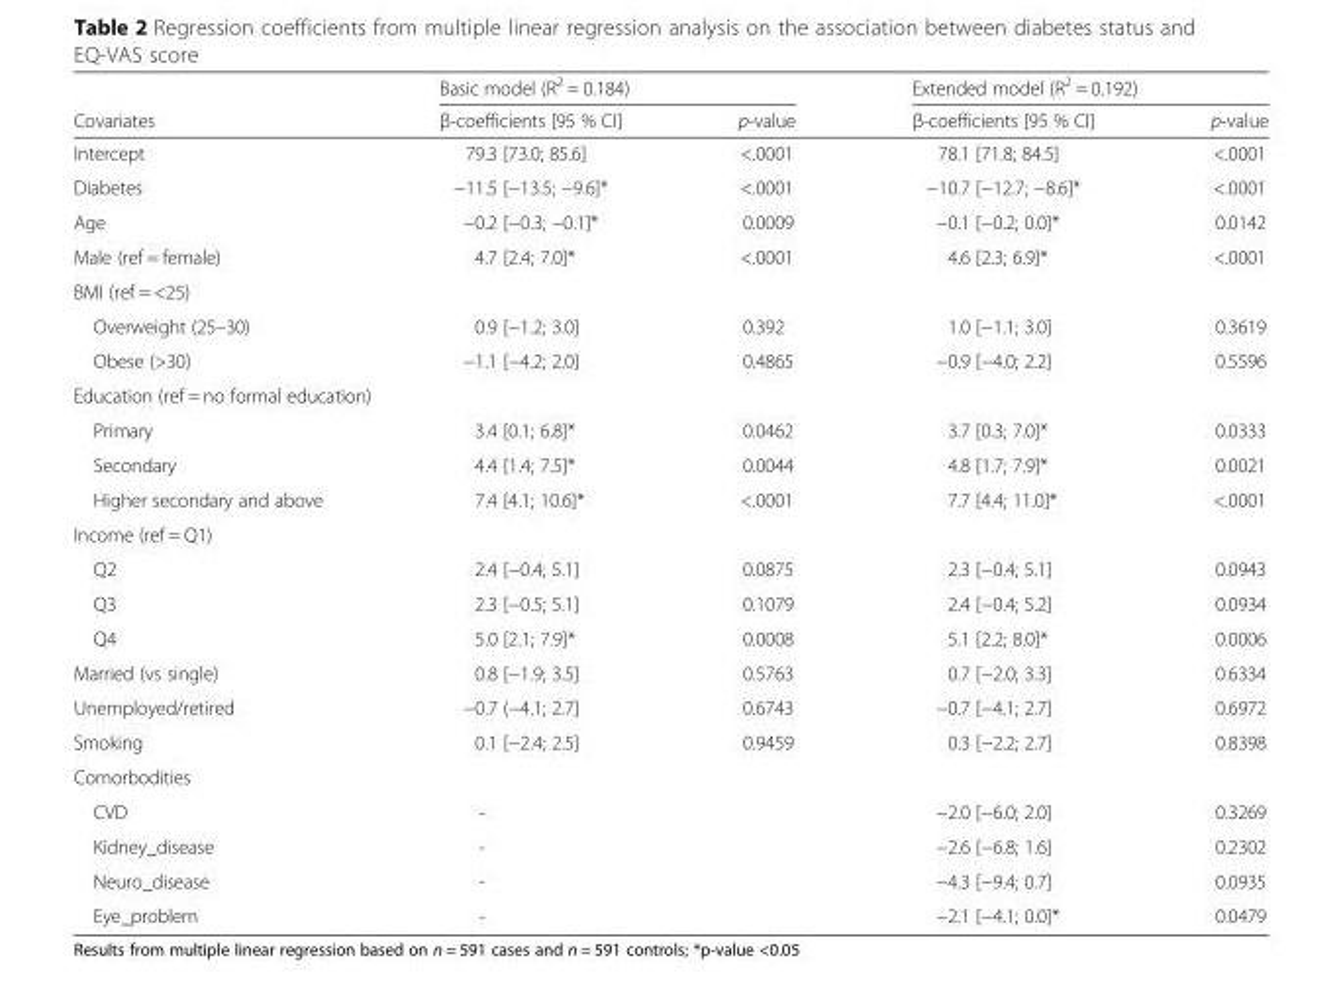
<table><thead><tr><td rowspan="2">Covariates</td><td colspan="2">Basic model (R<sup>2</sup> = 0.184)</td><td colspan="2">Extended model (R<sup>2</sup> = 0.192)</td></tr><tr><td>β-coefficients [95 % CI]</td><td>p-value</td><td>β-coefficients [95 % CI]</td><td>p-value</td></tr></thead><tbody><tr><td>Intercept</td><td>79.3 [73.0; 85.6]</td><td>&lt;.0001</td><td>78.1 [71.8; 84.5]</td><td>&lt;.0001</td></tr><tr><td>Diabetes</td><td>−11.5 [−13.5; −9.6]*</td><td>&lt;.0001</td><td>−10.7 [−12.7; −8.6]*</td><td>&lt;.0001</td></tr><tr><td>Age</td><td>−0.2 [−0.3; −0.1]*</td><td>0.0009</td><td>−0.1 [−0.2; 0.0]*</td><td>0.0142</td></tr><tr><td>Male (ref = female)</td><td>4.7 [2.4; 7.0]*</td><td>&lt;.0001</td><td>4.6 [2.3; 6.9]*</td><td>&lt;.0001</td></tr><tr><td colspan="5">BMI (ref = &lt;25)</td></tr><tr><td>Overweight (25–30)</td><td>0.9 [−1.2; 3.0]</td><td>0.392</td><td>1.0 [−1.1; 3.0]</td><td>0.3619</td></tr><tr><td>Obese (&gt;30)</td><td>−1.1 [−4.2; 2.0]</td><td>0.4865</td><td>−0.9 [−4.0; 2.2]</td><td>0.5596</td></tr><tr><td colspan="5">Education (ref = no formal education)</td></tr><tr><td>Primary</td><td>3.4 [0.1; 6.8]*</td><td>0.0462</td><td>3.7 [0.3; 7.0]*</td><td>0.0333</td></tr><tr><td>Secondary</td><td>4.4 [1.4; 7.5]*</td><td>0.0044</td><td>4.8 [1.7; 7.9]*</td><td>0.0021</td></tr><tr><td>Higher secondary and above</td><td>7.4 [4.1; 10.6]*</td><td>&lt;.0001</td><td>7.7 [4.4; 11.0]*</td><td>&lt;.0001</td></tr><tr><td colspan="5">Income (ref = Q1)</td></tr><tr><td>Q2</td><td>2.4 [−0.4; 5.1]</td><td>0.0875</td><td>2.3 [−0.4; 5.1]</td><td>0.0943</td></tr><tr><td>Q3</td><td>2.3 [−0.5; 5.1]</td><td>0.1079</td><td>2.4 [−0.4; 5.2]</td><td>0.0934</td></tr><tr><td>Q4</td><td>5.0 [2.1; 7.9]*</td><td>0.0008</td><td>5.1 [2.2; 8.0]*</td><td>0.0006</td></tr><tr><td>Married (vs single)</td><td>0.8 [−1.9; 3.5]</td><td>0.5763</td><td>0.7 [−2.0; 3.3]</td><td>0.6334</td></tr><tr><td>Unemployed/retired</td><td>−0.7 (−4.1; 2.7]</td><td>0.6743</td><td>−0.7 [−4.1; 2.7]</td><td>0.6972</td></tr><tr><td>Smoking</td><td>0.1 [−2.4; 2.5]</td><td>0.9459</td><td>0.3 [−2.2; 2.7]</td><td>0.8398</td></tr><tr><td colspan="5">Comorbodities</td></tr><tr><td>CVD</td><td>-</td><td></td><td>−2.0 [−6.0; 2.0]</td><td>0.3269</td></tr><tr><td>Kidney_disease</td><td>-</td><td></td><td>−2.6 [−6.8; 1.6]</td><td>0.2302</td></tr><tr><td>Neuro_disease</td><td>-</td><td></td><td>−4.3 [−9.4; 0.7]</td><td>0.0935</td></tr><tr><td>Eye_problem</td><td>-</td><td></td><td>−2.1 [−4.1; 0.0]*</td><td>0.0479</td></tr></tbody></table>